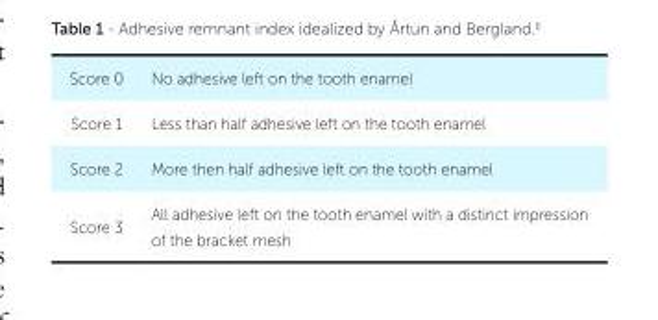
<table><tbody><tr><td>Score 0</td><td>No adhesive left on the tooth enamel</td></tr><tr><td>Score 1</td><td>Less than half adhesive left on the tooth enamel</td></tr><tr><td>Score 2</td><td>More then half adhesive left on the tooth enamel</td></tr><tr><td>Score 3</td><td>All adhesive left on the tooth enamel with a distinct impression of the bracket mesh</td></tr></tbody></table>